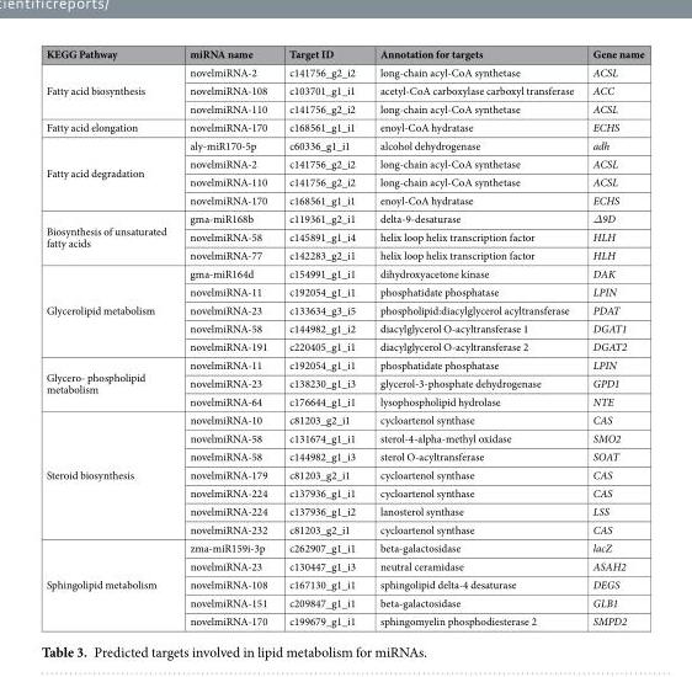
<table><thead><tr><td>KEGG Pathway</td><td>miRNA name</td><td>Target ID</td><td>Annotation for targets</td><td>Gene name</td></tr></thead><tbody><tr><td rowspan="3">Fatty acid biosynthesis</td><td>novelmiRNA-2</td><td>c141756_g2_i2</td><td>long-chain acyl-CoA synthetase</td><td>ACSL</td></tr><tr><td>novelmiRNA-108</td><td>c103701_g1_i1</td><td>acetyl-CoA carboxylase carboxyl transferase</td><td>ACC</td></tr><tr><td>novelmiRNA-110</td><td>c141756_g2_i2</td><td>long-chain acyl-CoA synthetase</td><td>ACSL</td></tr><tr><td>Fatty acid elongation</td><td>novelmiRNA-170</td><td>c168561_g1_i1</td><td>enoyl-CoA hydratase</td><td>ECHS</td></tr><tr><td rowspan="4">Fatty acid degradation</td><td>aly-miR170-5p</td><td>c60336_g1_i1</td><td>alcohol dehydrogenase</td><td>adh</td></tr><tr><td>novelmiRNA-2</td><td>c141756_g2_i2</td><td>long-chain acyl-CoA synthetase</td><td>ACSL</td></tr><tr><td>novelmiRNA-110</td><td>c141756_g2_i2</td><td>long-chain acyl-CoA synthetase</td><td>ACSL</td></tr><tr><td>novelmiRNA-170</td><td>c168561_g1_i1</td><td>enoyl-CoA hydratase</td><td>ECHS</td></tr><tr><td rowspan="3">Biosynthesis of unsaturated fatty acids</td><td>gma-miR168b</td><td>c119361_g2_i1</td><td>delta-9-desaturase</td><td>Δ9D</td></tr><tr><td>novelmiRNA-58</td><td>c145891_g1_i4</td><td>helix loop helix transcription factor</td><td>HLH</td></tr><tr><td>novelmiRNA-77</td><td>c142283_g2_i1</td><td>helix loop helix transcription factor</td><td>HLH</td></tr><tr><td rowspan="5">Glycerolipid metabolism</td><td>gma-miR164d</td><td>c154991_g1_i1</td><td>dihydroxyacetone kinase</td><td>DAK</td></tr><tr><td>novelmiRNA-11</td><td>c192054_g1_i1</td><td>phosphatidate phosphatase</td><td>LPIN</td></tr><tr><td>novelmiRNA-23</td><td>c133634_g3_i5</td><td>phospholipid:diacylglycerol acyltransferase</td><td>PDAT</td></tr><tr><td>novelmiRNA-58</td><td>c144982_g1_i2</td><td>diacylglycerol O-acyltransferase 1</td><td>DGAT1</td></tr><tr><td>novelmiRNA-191</td><td>c220405_g1_i1</td><td>diacylglycerol O-acyltransferase 2</td><td>DGAT2</td></tr><tr><td rowspan="3">Glycero- phospholipid metabolism</td><td>novelmiRNA-11</td><td>c192054_g1_i1</td><td>phosphatidate phosphatase</td><td>LPIN</td></tr><tr><td>novelmiRNA-23</td><td>c138230_g1_i3</td><td>glycerol-3-phosphate dehydrogenase</td><td>GPD1</td></tr><tr><td>novelmiRNA-64</td><td>c176644_g1_i1</td><td>lysophospholipid hydrolase</td><td>NTE</td></tr><tr><td rowspan="7">Steroid biosynthesis</td><td>novelmiRNA-10</td><td>c81203_g2_i1</td><td>cycloartenol synthase</td><td>CAS</td></tr><tr><td>novelmiRNA-58</td><td>c131674_g1_i1</td><td>sterol-4-alpha-methyl oxidase</td><td>SMO2</td></tr><tr><td>novelmiRNA-58</td><td>c144982_g1_i3</td><td>sterol O-acyltransferase</td><td>SOAT</td></tr><tr><td>novelmiRNA-179</td><td>c81203_g2_i1</td><td>cycloartenol synthase</td><td>CAS</td></tr><tr><td>novelmiRNA-224</td><td>c137936_g1_i1</td><td>cycloartenol synthase</td><td>CAS</td></tr><tr><td>novelmiRNA-224</td><td>c137936_g1_i2</td><td>lanosterol synthase</td><td>LSS</td></tr><tr><td>novelmiRNA-232</td><td>c81203_g2_i1</td><td>cycloartenol synthase</td><td>CAS</td></tr><tr><td rowspan="5">Sphingolipid metabolism</td><td>zma-miR159i-3p</td><td>c262907_g1_i1</td><td>beta-galactosidase</td><td>lacZ</td></tr><tr><td>novelmiRNA-23</td><td>c130447_g1_i3</td><td>neutral ceramidase</td><td>ASAH2</td></tr><tr><td>novelmiRNA-108</td><td>c167130_g1_i1</td><td>sphingolipid delta-4 desaturase</td><td>DEGS</td></tr><tr><td>novelmiRNA-151</td><td>c209847_g1_i1</td><td>beta-galactosidase</td><td>GLB1</td></tr><tr><td>novelmiRNA-170</td><td>c199679_g1_i1</td><td>sphingomyelin phosphodiesterase 2</td><td>SMPD2</td></tr></tbody></table>